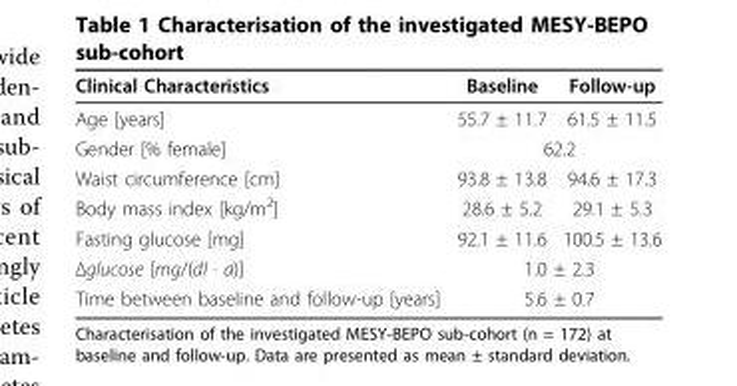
<table><thead><tr><td>Clinical Characteristics</td><td>Baseline</td><td>Follow-up</td></tr></thead><tbody><tr><td>Age [years]</td><td>55.7 ± 11.7</td><td>61.5 ± 11.5</td></tr><tr><td>Gender [% female]</td><td colspan="2">62.2</td></tr><tr><td>Waist circumference [cm]</td><td>93.8 ± 13.8</td><td>94.6 ± 17.3</td></tr><tr><td>Body mass index [kg/m<sup>2</sup>]</td><td>28.6 ± 5.2</td><td>29.1 ± 5.3</td></tr><tr><td>Fasting glucose [mg]</td><td>92.1 ± 11.6</td><td>100.5 ± 13.6</td></tr><tr><td>Δglucose [mg/(dl · a)]</td><td colspan="2">1.0 ± 2.3</td></tr><tr><td>Time between baseline and follow-up [years]</td><td colspan="2">5.6 ± 0.7</td></tr></tbody></table>